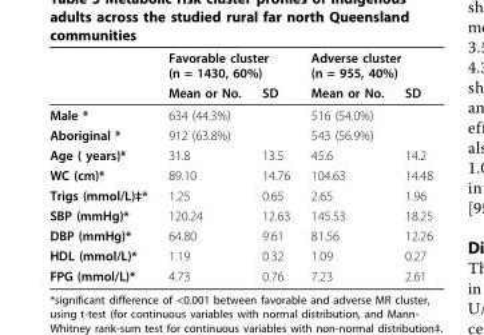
<table><thead><tr><td rowspan="2"></td><td colspan="2">Favorable cluster (n = 1430, 60%)</td><td colspan="2">Adverse cluster (n = 955, 40%)</td></tr><tr><td>Mean or No.</td><td>SD</td><td>Mean or No.</td><td>SD</td></tr></thead><tbody><tr><td>Male *</td><td>634 (44.3%)</td><td></td><td>516 (54.0%)</td><td></td></tr><tr><td>Aboriginal *</td><td>912 (63.8%)</td><td></td><td>543 (56.9%)</td><td></td></tr><tr><td>Age ( years)*</td><td>31.8</td><td>13.5</td><td>45.6</td><td>14.2</td></tr><tr><td>WC (cm)*</td><td>89.10</td><td>14.76</td><td>104.63</td><td>14.48</td></tr><tr><td>Trigs (mmol/L)‡*</td><td>1.25</td><td>0.65</td><td>2.65</td><td>1.96</td></tr><tr><td>SBP (mmHg)*</td><td>120.24</td><td>12.63</td><td>145.53</td><td>18.25</td></tr><tr><td>DBP (mmHg)*</td><td>64.80</td><td>9.61</td><td>81.56</td><td>12.26</td></tr><tr><td>HDL (mmol/L)*</td><td>1.19</td><td>0.32</td><td>1.09</td><td>0.27</td></tr><tr><td>FPG (mmol/L)*</td><td>4.73</td><td>0.76</td><td>7.23</td><td>2.61</td></tr></tbody></table>